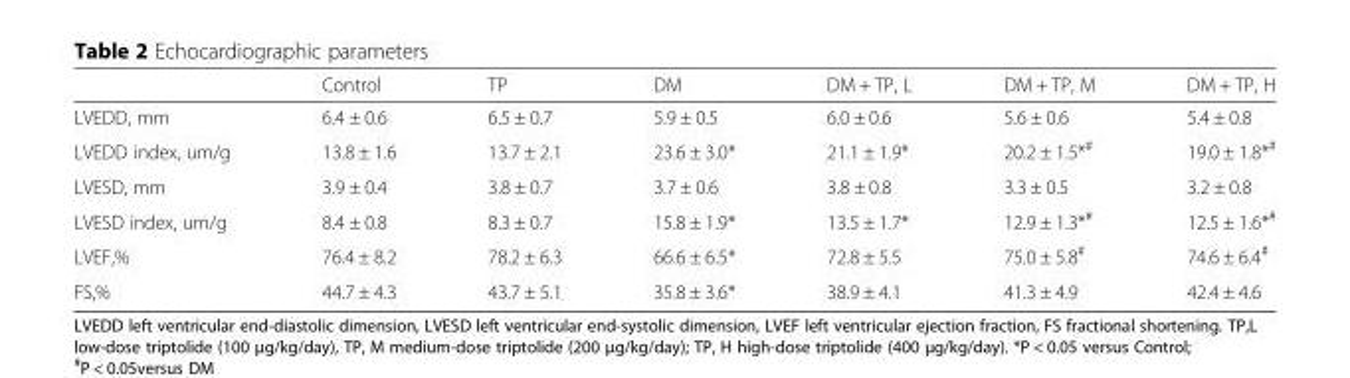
<table><thead><tr><td></td><td>Control</td><td>TP</td><td>DM</td><td>DM + TP, L</td><td>DM + TP, M</td><td>DM + TP, H</td></tr></thead><tbody><tr><td>LVEDD, mm</td><td>6.4 ± 0.6</td><td>6.5 ± 0.7</td><td>5.9 ± 0.5</td><td>6.0 ± 0.6</td><td>5.6 ± 0.6</td><td>5.4 ± 0.8</td></tr><tr><td>LVEDD index, um/g</td><td>13.8 ± 1.6</td><td>13.7 ± 2.1</td><td>23.6 ± 3.0*</td><td>21.1 ± 1.9*</td><td>20.2 ± 1.5*<sup>#</sup></td><td>19.0 ± 1.8*<sup>#</sup></td></tr><tr><td>LVESD, mm</td><td>3.9 ± 0.4</td><td>3.8 ± 0.7</td><td>3.7 ± 0.6</td><td>3.8 ± 0.8</td><td>3.3 ± 0.5</td><td>3.2 ± 0.8</td></tr><tr><td>LVESD index, um/g</td><td>8.4 ± 0.8</td><td>8.3 ± 0.7</td><td>15.8 ± 1.9*</td><td>13.5 ± 1.7*</td><td>12.9 ± 1.3*<sup>#</sup></td><td>12.5 ± 1.6*<sup>#</sup></td></tr><tr><td>LVEF,%</td><td>76.4 ± 8.2</td><td>78.2 ± 6.3</td><td>66.6 ± 6.5*</td><td>72.8 ± 5.5</td><td>75.0 ± 5.8<sup>#</sup></td><td>74.6 ± 6.4<sup>#</sup></td></tr><tr><td>FS,%</td><td>44.7 ± 4.3</td><td>43.7 ± 5.1</td><td>35.8 ± 3.6*</td><td>38.9 ± 4.1</td><td>41.3 ± 4.9</td><td>42.4 ± 4.6</td></tr></tbody></table>